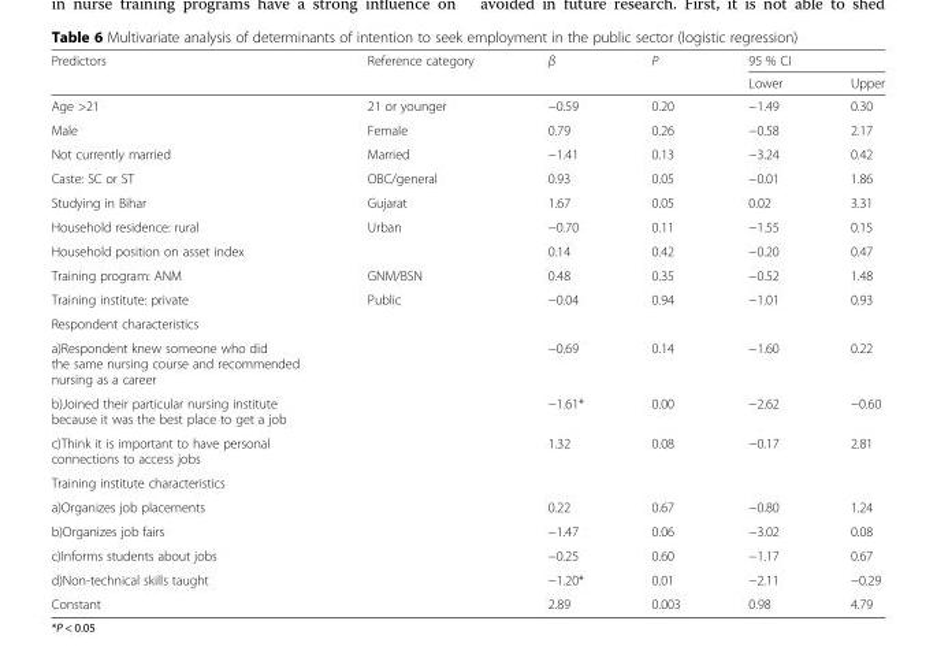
<table><thead><tr><td rowspan="2">Predictors</td><td rowspan="2">Reference category</td><td rowspan="2">β</td><td rowspan="2">P</td><td colspan="2">95 % CI</td></tr><tr><td>Lower</td><td>Upper</td></tr></thead><tbody><tr><td>Age &gt;21</td><td>21 or younger</td><td>−0.59</td><td>0.20</td><td>−1.49</td><td>0.30</td></tr><tr><td>Male</td><td>Female</td><td>0.79</td><td>0.26</td><td>−0.58</td><td>2.17</td></tr><tr><td>Not currently married</td><td>Married</td><td>−1.41</td><td>0.13</td><td>−3.24</td><td>0.42</td></tr><tr><td>Caste: SC or ST</td><td>OBC/general</td><td>0.93</td><td>0.05</td><td>−0.01</td><td>1.86</td></tr><tr><td>Studying in Bihar</td><td>Gujarat</td><td>1.67</td><td>0.05</td><td>0.02</td><td>3.31</td></tr><tr><td>Household residence: rural</td><td>Urban</td><td>−0.70</td><td>0.11</td><td>−1.55</td><td>0.15</td></tr><tr><td colspan="2">Household position on asset index</td><td>0.14</td><td>0.42</td><td>−0.20</td><td>0.47</td></tr><tr><td>Training program: ANM</td><td>GNM/BSN</td><td>0.48</td><td>0.35</td><td>−0.52</td><td>1.48</td></tr><tr><td>Training institute: private</td><td>Public</td><td>−0.04</td><td>0.94</td><td>−1.01</td><td>0.93</td></tr><tr><td colspan="6">Respondent characteristics</td></tr><tr><td>a)Respondent knew someone who did the same nursing course and recommended nursing as a career</td><td></td><td>−0.69</td><td>0.14</td><td>−1.60</td><td>0.22</td></tr><tr><td>b)Joined their particular nursing institute because it was the best place to get a job</td><td></td><td>−1.61*</td><td>0.00</td><td>−2.62</td><td>−0.60</td></tr><tr><td>c)Think it is important to have personal connections to access jobs</td><td></td><td>1.32</td><td>0.08</td><td>−0.17</td><td>2.81</td></tr><tr><td colspan="6">Training institute characteristics</td></tr><tr><td>a)Organizes job placements</td><td></td><td>0.22</td><td>0.67</td><td>−0.80</td><td>1.24</td></tr><tr><td>b)Organizes job fairs</td><td></td><td>−1.47</td><td>0.06</td><td>−3.02</td><td>0.08</td></tr><tr><td>c)Informs students about jobs</td><td></td><td>−0.25</td><td>0.60</td><td>−1.17</td><td>0.67</td></tr><tr><td>d)Non-technical skills taught</td><td></td><td>−1.20*</td><td>0.01</td><td>−2.11</td><td>−0.29</td></tr><tr><td>Constant</td><td></td><td>2.89</td><td>0.003</td><td>0.98</td><td>4.79</td></tr></tbody></table>